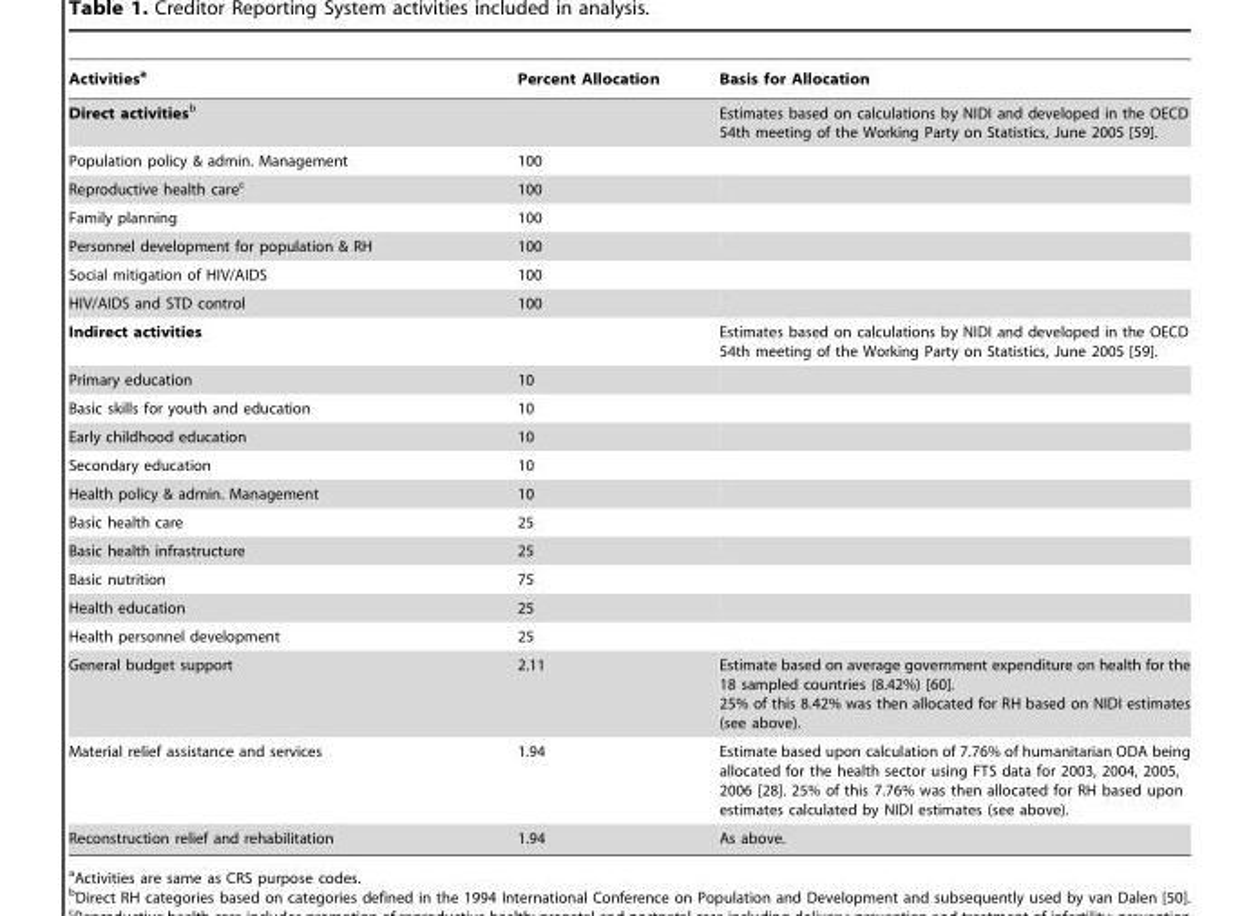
<table><thead><tr><td>Activities<sup>a</sup></td><td>Percent Allocation</td><td>Basis for Allocation</td></tr></thead><tbody><tr><td>Direct activitiesb</td><td></td><td>Estimates based on calculations by NIDI and developed in the OECD 54th meeting of the Working Party on Statistics, June 2005 [59].</td></tr><tr><td>Population policy &amp; admin. Management</td><td>100</td><td></td></tr><tr><td>Reproductive health care<sup>c</sup></td><td>100</td><td></td></tr><tr><td>Family planning</td><td>100</td><td></td></tr><tr><td>Personnel development for population &amp; RH</td><td>100</td><td></td></tr><tr><td>Social mitigation of HIV/AIDS</td><td>100</td><td></td></tr><tr><td>HIV/AIDS and STD control</td><td>100</td><td></td></tr><tr><td>Indirect activities</td><td></td><td>Estimates based on calculations by NIDI and developed in the OECD 54th meeting of the Working Party on Statistics, June 2005 [59].</td></tr><tr><td>Primary education</td><td>10</td><td></td></tr><tr><td>Basic skills for youth and education</td><td>10</td><td></td></tr><tr><td>Early childhood education</td><td>10</td><td></td></tr><tr><td>Secondary education</td><td>10</td><td></td></tr><tr><td>Health policy &amp; admin. Management</td><td>10</td><td></td></tr><tr><td>Basic health care</td><td>25</td><td></td></tr><tr><td>Basic health infrastructure</td><td>25</td><td></td></tr><tr><td>Basic nutrition</td><td>75</td><td></td></tr><tr><td>Health education</td><td>25</td><td></td></tr><tr><td>Health personnel development</td><td>25</td><td></td></tr><tr><td>General budget support</td><td>2.11</td><td>Estimate based on average government expenditure on health for the 18 sampled countries (8.42%) [60]. 25% of this 8.42% was then allocated for RH based on NIDI estimates (see above).</td></tr><tr><td>Material relief assistance and services</td><td>1.94</td><td>Estimate based upon calculation of 7.76% of humanitarian ODA being allocated for the health sector using FTS data for 2003, 2004, 2005, 2006 [28]. 25% of this 7.76% was then allocated for RH based upon estimates calculated by NIDI estimates (see above).</td></tr><tr><td>Reconstruction relief and rehabilitation</td><td>1.94</td><td>As above.</td></tr></tbody></table>